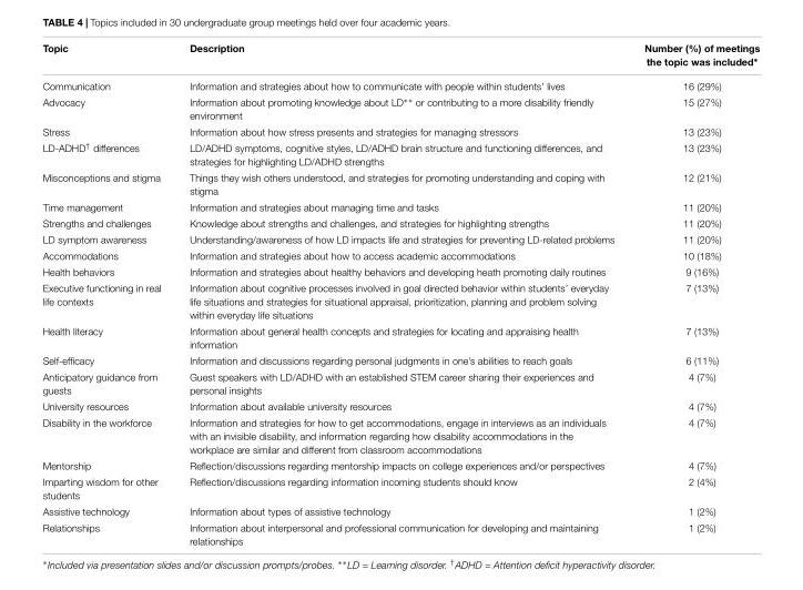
<table><thead><tr><td>Topic</td><td>Description</td><td>Number (%) of meetings the topic was included∗</td></tr></thead><tbody><tr><td>Communication</td><td>Information and strategies about how to communicate with people within students’ lives</td><td>16 (29%)</td></tr><tr><td>Advocacy</td><td>Information about promoting knowledge about LD∗∗ or contributing to a more disability friendly environment</td><td>15 (27%)</td></tr><tr><td>Stress</td><td>Information about how stress presents and strategies for managing stressors</td><td>13 (23%)</td></tr><tr><td>LD-ADHD<sup>†</sup> differences</td><td>LD/ADHD symptoms, cognitive styles, LD/ADHD brain structure and functioning differences, and strategies for highlighting LD/ADHD strengths</td><td>13 (23%)</td></tr><tr><td>Misconceptions and stigma</td><td>Things they wish others understood, and strategies for promoting understanding and coping with stigma</td><td>12 (21%)</td></tr><tr><td>Time management</td><td>Information and strategies about managing time and tasks</td><td>11 (20%)</td></tr><tr><td>Strengths and challenges</td><td>Knowledge about strengths and challenges, and strategies for highlighting strengths</td><td>11 (20%)</td></tr><tr><td>LD symptom awareness</td><td>Understanding/awareness of how LD impacts life and strategies for preventing LD-related problems</td><td>11 (20%)</td></tr><tr><td>Accommodations</td><td>Information and strategies about how to access academic accommodations</td><td>10 (18%)</td></tr><tr><td>Health behaviors</td><td>Information and strategies about healthy behaviors and developing heath promoting daily routines</td><td>9 (16%)</td></tr><tr><td>Executive functioning in real life contexts</td><td>Information about cognitive processes involved in goal directed behavior within students’ everyday life situations and strategies for situational appraisal, prioritization, planning and problem solving within everyday life situations</td><td>7 (13%)</td></tr><tr><td>Health literacy</td><td>Information about general health concepts and strategies for locating and appraising health information</td><td>7 (13%)</td></tr><tr><td>Self-efficacy</td><td>Information and discussions regarding personal judgments in one’s abilities to reach goals</td><td>6 (11%)</td></tr><tr><td>Anticipatory guidance from guests</td><td>Guest speakers with LD/ADHD with an established STEM career sharing their experiences and personal insights</td><td>4 (7%)</td></tr><tr><td>University resources</td><td>Information about available university resources</td><td>4 (7%)</td></tr><tr><td>Disability in the workforce</td><td>Information and strategies for how to get accommodations, engage in interviews as an individuals with an invisible disability, and information regarding how disability accommodations in the workplace are similar and different from classroom accommodations</td><td>4 (7%)</td></tr><tr><td>Mentorship</td><td>Reflection/discussions regarding mentorship impacts on college experiences and/or perspectives</td><td>4 (7%)</td></tr><tr><td>Imparting wisdom for other students</td><td>Reflection/discussions regarding information incoming students should know</td><td>2 (4%)</td></tr><tr><td>Assistive technology</td><td>Information about types of assistive technology</td><td>1 (2%)</td></tr><tr><td>Relationships</td><td>Information about interpersonal and professional communication for developing and maintaining relationships</td><td>1 (2%)</td></tr></tbody></table>